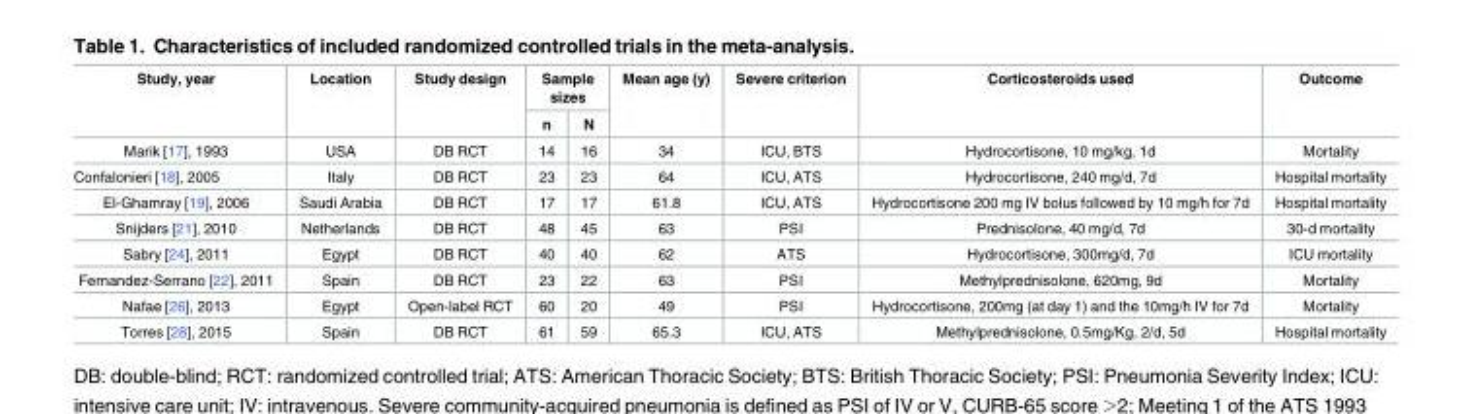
<table><thead><tr><td rowspan="2">Study, year</td><td rowspan="2">Location</td><td rowspan="2">Study design</td><td colspan="2">Sample sizes</td><td rowspan="2">Mean age (y)</td><td rowspan="2">Severe criterion</td><td rowspan="2">Corticosteroids used</td><td rowspan="2">Outcome</td></tr><tr><td>n</td><td>N</td></tr></thead><tbody><tr><td>Marik [17], 1993</td><td>USA</td><td>DB RCT</td><td>14</td><td>16</td><td>34</td><td>ICU, BTS</td><td>Hydrocortisone, 10 mg/kg, 1d</td><td>Mortality</td></tr><tr><td>Confalonieri [18], 2005</td><td>Italy</td><td>DB RCT</td><td>23</td><td>23</td><td>64</td><td>ICU, ATS</td><td>Hydrocortisone, 240 mg/d, 7d</td><td>Hospital mortality</td></tr><tr><td>El-Ghamray [19], 2006</td><td>Saudi Arabia</td><td>DB RCT</td><td>17</td><td>17</td><td>61.8</td><td>ICU, ATS</td><td>Hydrocortisone 200 mg IV bolus followed by 10 mg/h for 7d</td><td>Hospital mortality</td></tr><tr><td>Snijders [21], 2010</td><td>Netherlands</td><td>DB RCT</td><td>48</td><td>45</td><td>63</td><td>PSI</td><td>Prednisolone, 40 mg/d, 7d</td><td>30-d mortality</td></tr><tr><td>Sabry [24], 2011</td><td>Egypt</td><td>DB RCT</td><td>40</td><td>40</td><td>62</td><td>ATS</td><td>Hydrocortisone, 300mg/d, 7d</td><td>ICU mortality</td></tr><tr><td>Fernandez-Serrano [22], 2011</td><td>Spain</td><td>DB RCT</td><td>23</td><td>22</td><td>63</td><td>PSI</td><td>Methylprednisolone, 620mg, 9d</td><td>Mortality</td></tr><tr><td>Nafae [26], 2013</td><td>Egypt</td><td>Open-label RCT</td><td>60</td><td>20</td><td>49</td><td>PSI</td><td>Hydrocortisone, 200mg (at day 1) and the 10mg/h IV for 7d</td><td>Mortality</td></tr><tr><td>Torres [28], 2015</td><td>Spain</td><td>DB RCT</td><td>61</td><td>59</td><td>65.3</td><td>ICU, ATS</td><td>Methylprednisolone, 0.5mg/Kg, 2/d, 5d</td><td>Hospital mortality</td></tr></tbody></table>